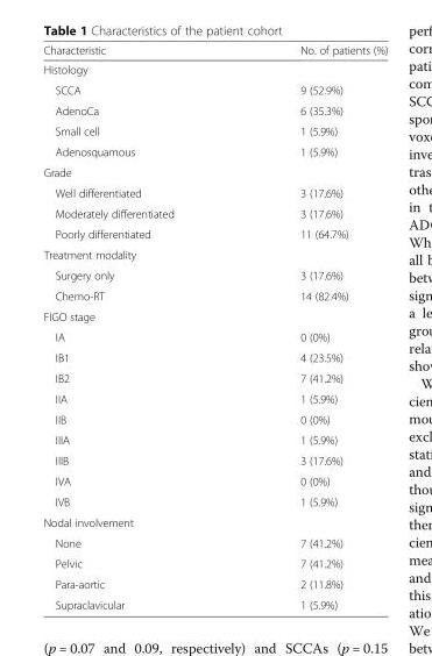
<table><thead><tr><td>Characteristic</td><td>No. of patients (%)</td></tr></thead><tbody><tr><td colspan="2">Histology</td></tr><tr><td>SCCA</td><td>9 (52.9%)</td></tr><tr><td>AdenoCa</td><td>6 (35.3%)</td></tr><tr><td>Small cell</td><td>1 (5.9%)</td></tr><tr><td>Adenosquamous</td><td>1 (5.9%)</td></tr><tr><td colspan="2">Grade</td></tr><tr><td>Well differentiated</td><td>3 (17.6%)</td></tr><tr><td>Moderately differentiated</td><td>3 (17.6%)</td></tr><tr><td>Poorly differentiated</td><td>11 (64.7%)</td></tr><tr><td colspan="2">Treatment modality</td></tr><tr><td>Surgery only</td><td>3 (17.6%)</td></tr><tr><td>Chemo-RT</td><td>14 (82.4%)</td></tr><tr><td colspan="2">FIGO stage</td></tr><tr><td>IA</td><td>0 (0%)</td></tr><tr><td>IB1</td><td>4 (23.5%)</td></tr><tr><td>IB2</td><td>7 (41.2%)</td></tr><tr><td>IIA</td><td>1 (5.9%)</td></tr><tr><td>IIB</td><td>0 (0%)</td></tr><tr><td>IIIA</td><td>1 (5.9%)</td></tr><tr><td>IIIB</td><td>3 (17.6%)</td></tr><tr><td>IVA</td><td>0 (0%)</td></tr><tr><td>IVB</td><td>1 (5.9%)</td></tr><tr><td colspan="2">Nodal involvement</td></tr><tr><td>None</td><td>7 (41.2%)</td></tr><tr><td>Pelvic</td><td>7 (41.2%)</td></tr><tr><td>Para-aortic</td><td>2 (11.8%)</td></tr><tr><td>Supraclavicular</td><td>1 (5.9%)</td></tr></tbody></table>